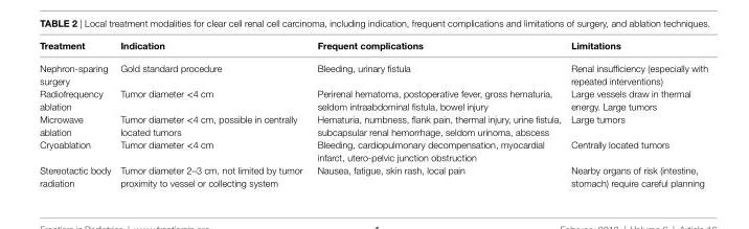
<table><thead><tr><td>Treatment</td><td>indication</td><td>Frequent complications</td><td>Limitations</td></tr></thead><tbody><tr><td>Nephron-sparing surgery</td><td>Gold standard procedure</td><td>Bleeding, urinary fistula</td><td>Renal insufficiency (especially with repeated interventions)</td></tr><tr><td>Radiofrequency ablation</td><td>Tumor diameter &lt;4 cm</td><td>Perirenal hematoma, postoperative fever, gross hematuria, seldom intraabdominal fistula, bowel injury</td><td>Large vessels draw in thermal energy. Large tumors</td></tr><tr><td>Microwave ablation</td><td>Tumor diameter &lt;4 cm, possible in centrally located tumors</td><td>Hematuria, numbness, flank pain, thermal injury, urine fistula, subcapsular renal hemorrhage, seldom urinoma, abscess</td><td>Large tumors</td></tr><tr><td>Cryoablation</td><td>Tumor diameter &lt;4 cm</td><td>Bleeding, cardiopulmonary decompensation, myocardial infarct, utero-pelvic junction obstruction</td><td>Centrally located tumors</td></tr><tr><td>Stereotactic body radiation</td><td>Tumor diameter 2–3 cm, not limited by tumor proximity to vessel or collecting system</td><td>Nausea, fatigue, skin rash, local pain</td><td>Nearby organs of risk (intestine, stomach) require careful planning</td></tr></tbody></table>